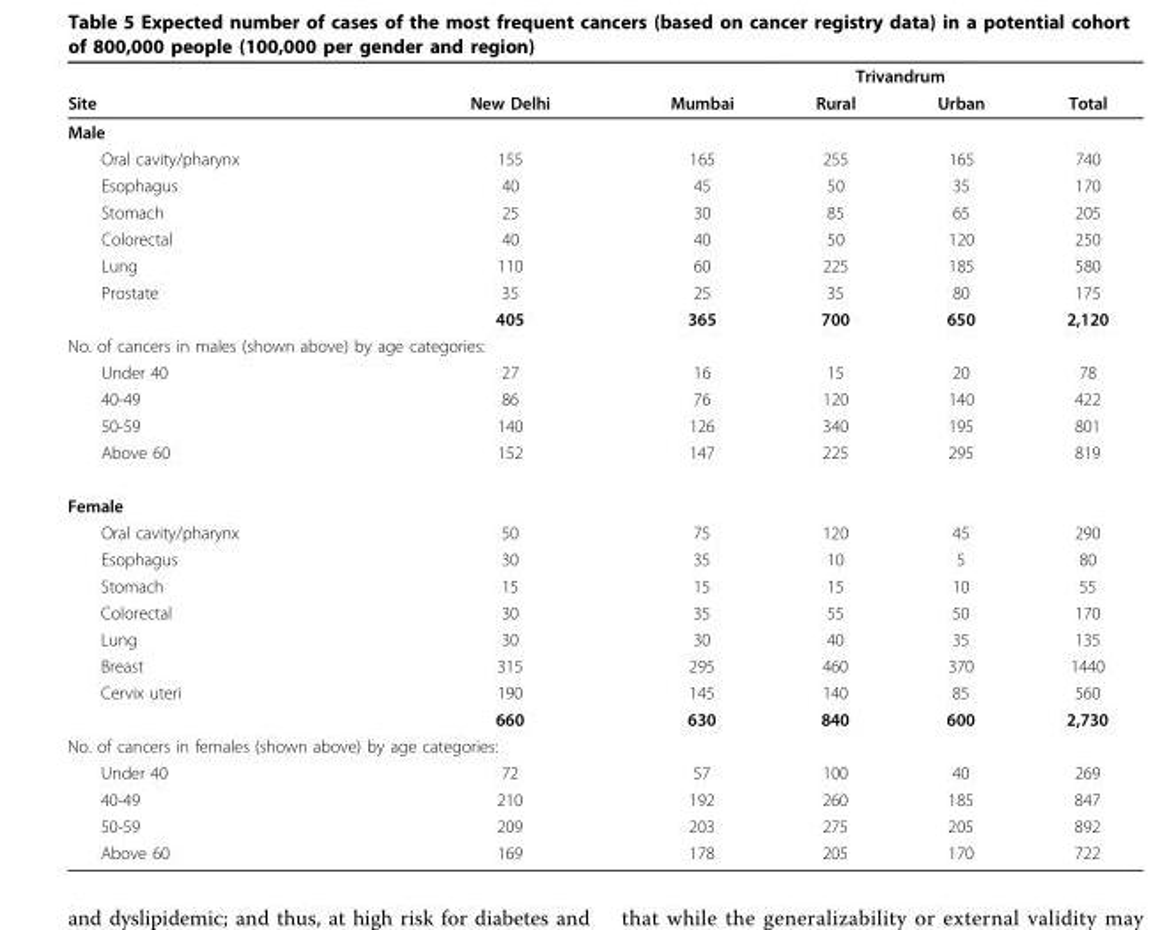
<table><thead><tr><td rowspan="2">Site</td><td rowspan="2">New Delhi</td><td rowspan="2">Mumbai</td><td colspan="2">Trivandrum</td><td rowspan="2">Total</td></tr><tr><td>Rural</td><td>Urban</td></tr></thead><tbody><tr><td colspan="6">Male</td></tr><tr><td>Oral cavity/pharynx</td><td>155</td><td>165</td><td>255</td><td>165</td><td>740</td></tr><tr><td>Esophagus</td><td>40</td><td>45</td><td>50</td><td>35</td><td>170</td></tr><tr><td>Stomach</td><td>25</td><td>30</td><td>85</td><td>65</td><td>205</td></tr><tr><td>Colorectal</td><td>40</td><td>40</td><td>50</td><td>120</td><td>250</td></tr><tr><td>Lung</td><td>110</td><td>60</td><td>225</td><td>185</td><td>580</td></tr><tr><td rowspan="2">Prostate</td><td>35</td><td>25</td><td>35</td><td>80</td><td>175</td></tr><tr><td>405</td><td>365</td><td>700</td><td>650</td><td>2,120</td></tr><tr><td colspan="6">No. of cancers in males (shown above) by age categories:</td></tr><tr><td>Under 40</td><td>27</td><td>16</td><td>15</td><td>20</td><td>78</td></tr><tr><td>40-49</td><td>86</td><td>76</td><td>120</td><td>140</td><td>422</td></tr><tr><td>50-59</td><td>140</td><td>126</td><td>340</td><td>195</td><td>801</td></tr><tr><td>Above 60</td><td>152</td><td>147</td><td>225</td><td>295</td><td>819</td></tr><tr><td colspan="6">Female</td></tr><tr><td>Oral cavity/pharynx</td><td>50</td><td>75</td><td>120</td><td>45</td><td>290</td></tr><tr><td>Esophagus</td><td>30</td><td>35</td><td>10</td><td>5</td><td>80</td></tr><tr><td>Stomach</td><td>15</td><td>15</td><td>15</td><td>10</td><td>55</td></tr><tr><td>Colorectal</td><td>30</td><td>35</td><td>55</td><td>50</td><td>170</td></tr><tr><td>Lung</td><td>30</td><td>30</td><td>40</td><td>35</td><td>135</td></tr><tr><td>Breast</td><td>315</td><td>295</td><td>460</td><td>370</td><td>1440</td></tr><tr><td rowspan="2">Cervix uteri</td><td>190</td><td>145</td><td>140</td><td>85</td><td>560</td></tr><tr><td>660</td><td>630</td><td>840</td><td>600</td><td>2,730</td></tr><tr><td colspan="6">No. of cancers in females (shown above) by age categories:</td></tr><tr><td>Under 40</td><td>72</td><td>57</td><td>100</td><td>40</td><td>269</td></tr><tr><td>40-49</td><td>210</td><td>192</td><td>260</td><td>185</td><td>847</td></tr><tr><td>50-59</td><td>209</td><td>203</td><td>275</td><td>205</td><td>892</td></tr><tr><td>Above 60</td><td>169</td><td>178</td><td>205</td><td>170</td><td>722</td></tr></tbody></table>